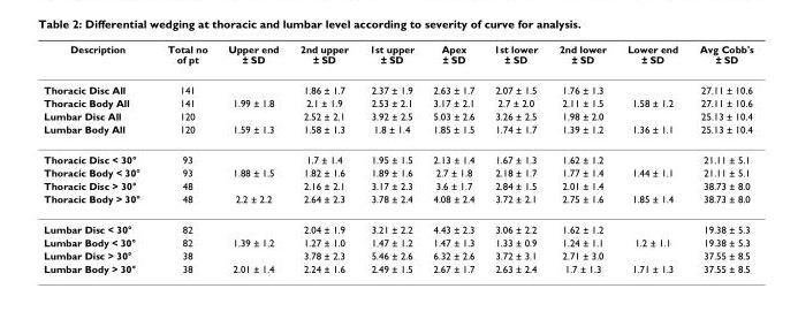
<table><thead><tr><td>Description</td><td>Total no of pt</td><td>Upper end ± SD</td><td>2nd upper ± SD</td><td>1st upper ± SD</td><td>Apex ± SD</td><td>1st lower ± SD</td><td>2nd lower ± SD</td><td>Lower end ± SD</td><td>Avg Cobb&#x27;s ± SD</td></tr></thead><tbody><tr><td>Thoracic Disc All</td><td>141</td><td></td><td>1.86 ± 1.7</td><td>2.37 ± 1.9</td><td>2.63 ± 1.7</td><td>2.07 ± 1.5</td><td>1.76 ± 1.3</td><td></td><td>27.11 ± 10.6</td></tr><tr><td>Thoracic Body All</td><td>141</td><td>1.99 ± 1.8</td><td>2.1 ± 1.9</td><td>2.53 ± 2.1</td><td>3.17 ± 2.1</td><td>2.7 ± 2.0</td><td>2.11 ± 1.5</td><td>1.58 ± 1.2</td><td>27.11 ± 10.6</td></tr><tr><td>Lumbar Disc All</td><td>120</td><td></td><td>2.52 ± 2.1</td><td>3.92 ± 2.5</td><td>5.03 ± 2.6</td><td>3.26 ± 2.5</td><td>1.98 ± 2.0</td><td></td><td>25.13 ± 10.4</td></tr><tr><td>Lumbar Body All</td><td>120</td><td>1.59 ± 1.3</td><td>1.58 ± 1.3</td><td>1.8 ± 1.4</td><td>1.85 ± 1.5</td><td>1.74 ± 1.7</td><td>1.39 ± 1.2</td><td>1.36 ± 1.1</td><td>25.13 ± 10.4</td></tr><tr><td>Thoracic Disc &lt; 30°</td><td>93</td><td></td><td>1.7 ± 1.4</td><td>1.95 ± 1.5</td><td>2.13 ± 1.4</td><td>1.67 ± 1.3</td><td>1.62 ± 1.2</td><td></td><td>21.11 ± 5.1</td></tr><tr><td>Thoracic Body &lt; 30°</td><td>93</td><td>1.88 ± 1.5</td><td>1.82 ± 1.6</td><td>1.89 ± 1.6</td><td>2.7 ± 1.8</td><td>2.18 ± 1.7</td><td>1.77 ± 1.4</td><td>1.44 ± 1.1</td><td>21.11 ± 5.1</td></tr><tr><td>Thoracic Disc &gt; 30°</td><td>48</td><td></td><td>2.16 ± 2.1</td><td>3.17 ± 2.3</td><td>3.6 ± 1.7</td><td>2.84 ± 1.5</td><td>2.01 ± 1.4</td><td></td><td>38.73 ± 8.0</td></tr><tr><td>Thoracic Body &gt; 30°</td><td>48</td><td>2.2 ± 2.2</td><td>2.64 ± 2.3</td><td>3.78 ± 2.4</td><td>4.08 ± 2.4</td><td>3.72 ± 2.1</td><td>2.75 ± 1.6</td><td>1.85 ± 1.4</td><td>38.73 ± 8.0</td></tr><tr><td>Lumbar Disc &lt; 30°</td><td>82</td><td></td><td>2.04 ± 1.9</td><td>3.21 ± 2.2</td><td>4.43 ± 2.3</td><td>3.06 ± 2.2</td><td>1.62 ± 1.2</td><td></td><td>19.38 ± 5.3</td></tr><tr><td>Lumbar Body &lt; 30°</td><td>82</td><td>1.39 ± 1.2</td><td>1.27 ± 1.0</td><td>1.47 ± 1.2</td><td>1.47 ± 1.3</td><td>1.33 ± 0.9</td><td>1.24 ± 1.1</td><td>1.2 ± 1.1</td><td>19.38 ± 5.3</td></tr><tr><td>Lumbar Disc &gt; 30°</td><td>38</td><td></td><td>3.78 ± 2.3</td><td>5.46 ± 2.6</td><td>6.32 ± 2.6</td><td>3.72 ± 3.1</td><td>2.71 ± 3.0</td><td></td><td>37.55 ± 8.5</td></tr><tr><td>Lumbar Body &gt; 30°</td><td>38</td><td>2.01 ± 1.4</td><td>2.24 ± 1.6</td><td>2.49 ± 1.5</td><td>2.67 ± 1.7</td><td>2.63 ± 2.4</td><td>1.7 ± 1.3</td><td>1.71 ± 1.3</td><td>37.55 ± 8.5</td></tr></tbody></table>